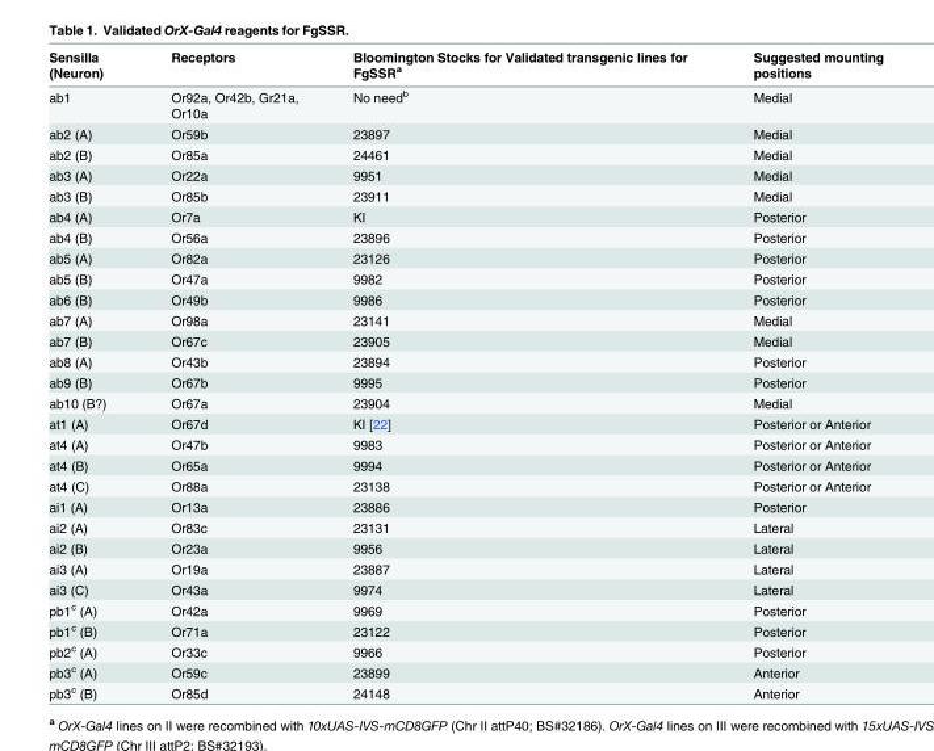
<table><thead><tr><td>Sensilla (Neuron)</td><td>Receptors</td><td>Bloomington Stocks for Validated transgenic lines for FgSSR<sup>a</sup></td><td>Suggested mounting positions</td></tr></thead><tbody><tr><td>ab1</td><td>Or92a, Or42b, Gr21a, Or10a</td><td>No need<sup>b</sup></td><td>Medial</td></tr><tr><td>ab2 (A)</td><td>Or59b</td><td>23897</td><td>Medial</td></tr><tr><td>ab2 (B)</td><td>Or85a</td><td>24461</td><td>Medial</td></tr><tr><td>ab3 (A)</td><td>Or22a</td><td>9951</td><td>Medial</td></tr><tr><td>ab3 (B)</td><td>Or85b</td><td>23911</td><td>Medial</td></tr><tr><td>ab4 (A)</td><td>Or7a</td><td>KI</td><td>Posterior</td></tr><tr><td>ab4 (B)</td><td>Or56a</td><td>23896</td><td>Posterior</td></tr><tr><td>ab5 (A)</td><td>Or82a</td><td>23126</td><td>Posterior</td></tr><tr><td>ab5 (B)</td><td>Or47a</td><td>9982</td><td>Posterior</td></tr><tr><td>ab6 (B)</td><td>Or49b</td><td>9986</td><td>Posterior</td></tr><tr><td>ab7 (A)</td><td>Or98a</td><td>23141</td><td>Medial</td></tr><tr><td>ab7 (B)</td><td>Or67c</td><td>23905</td><td>Medial</td></tr><tr><td>ab8 (A)</td><td>Or43b</td><td>23894</td><td>Posterior</td></tr><tr><td>ab9 (B)</td><td>Or67b</td><td>9995</td><td>Posterior</td></tr><tr><td>ab10 (B?)</td><td>Or67a</td><td>23904</td><td>Medial</td></tr><tr><td>at1 (A)</td><td>Or67d</td><td>KI [22]</td><td>Posterior or Anterior</td></tr><tr><td>at4 (A)</td><td>Or47b</td><td>9983</td><td>Posterior or Anterior</td></tr><tr><td>at4 (B)</td><td>Or65a</td><td>9994</td><td>Posterior or Anterior</td></tr><tr><td>at4 (C)</td><td>Or88a</td><td>23138</td><td>Posterior or Anterior</td></tr><tr><td>ai1 (A)</td><td>Or13a</td><td>23886</td><td>Posterior</td></tr><tr><td>ai2 (A)</td><td>Or83c</td><td>23131</td><td>Lateral</td></tr><tr><td>ai2 (B)</td><td>Or23a</td><td>9956</td><td>Lateral</td></tr><tr><td>ai3 (A)</td><td>Or19a</td><td>23887</td><td>Lateral</td></tr><tr><td>ai3 (C)</td><td>Or43a</td><td>9974</td><td>Lateral</td></tr><tr><td>pb1<sup>c</sup> (A)</td><td>Or42a</td><td>9969</td><td>Posterior</td></tr><tr><td>pb1<sup>c</sup> (B)</td><td>Or71a</td><td>23122</td><td>Posterior</td></tr><tr><td>pb2<sup>c</sup> (A)</td><td>Or33c</td><td>9966</td><td>Posterior</td></tr><tr><td>pb3<sup>c</sup> (A)</td><td>Or59c</td><td>23899</td><td>Anterior</td></tr><tr><td>pb3<sup>c</sup> (B)</td><td>Or85d</td><td>24148</td><td>Anterior</td></tr></tbody></table>